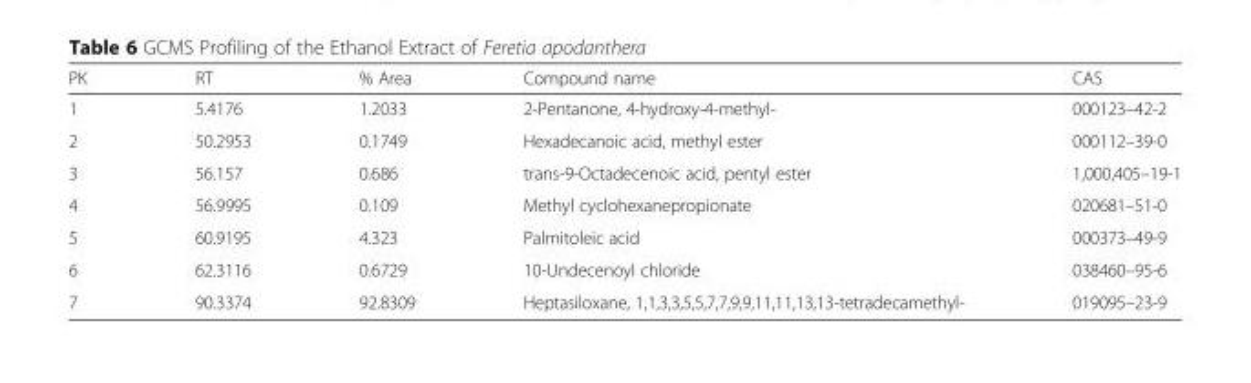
<table><thead><tr><td>PK</td><td>RT</td><td>% Area</td><td>Compound name</td><td>CAS</td></tr></thead><tbody><tr><td>1</td><td>5.4176</td><td>1.2033</td><td>2-Pentanone, 4-hydroxy-4-methyl-</td><td>000123–42-2</td></tr><tr><td>2</td><td>50.2953</td><td>0.1749</td><td>Hexadecanoic acid, methyl ester</td><td>000112–39-0</td></tr><tr><td>3</td><td>56.157</td><td>0.686</td><td>trans-9-Octadecenoic acid, pentyl ester</td><td>1,000,405–19-1</td></tr><tr><td>4</td><td>56.9995</td><td>0.109</td><td>Methyl cyclohexanepropionate</td><td>020681–51-0</td></tr><tr><td>5</td><td>60.9195</td><td>4.323</td><td>Palmitoleic acid</td><td>000373–49-9</td></tr><tr><td>6</td><td>62.3116</td><td>0.6729</td><td>10-Undecenoyl chloride</td><td>038460–95-6</td></tr><tr><td>7</td><td>90.3374</td><td>92.8309</td><td>Heptasiloxane, 1,1,3,3,5,5,7,7,9,9,11,11,13,13-tetradecamethyl-</td><td>019095–23-9</td></tr></tbody></table>